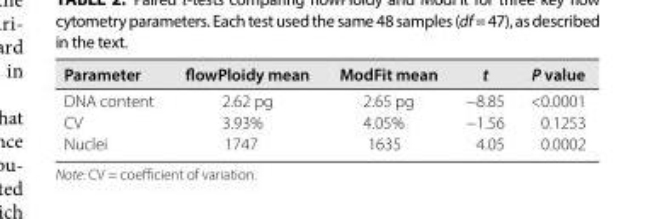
<table><thead><tr><td>Parameter</td><td>flowPloidy mean</td><td>ModFit mean</td><td>t</td><td>P value</td></tr></thead><tbody><tr><td>DNA content</td><td>2.62 pg</td><td>2.65 pg</td><td>−8.85</td><td>&lt;0.0001</td></tr><tr><td>CV</td><td>3.93%</td><td>4.05%</td><td>−1.56</td><td>0.1253</td></tr><tr><td>Nuclei</td><td>1747</td><td>1635</td><td>4.05</td><td>0.0002</td></tr></tbody></table>